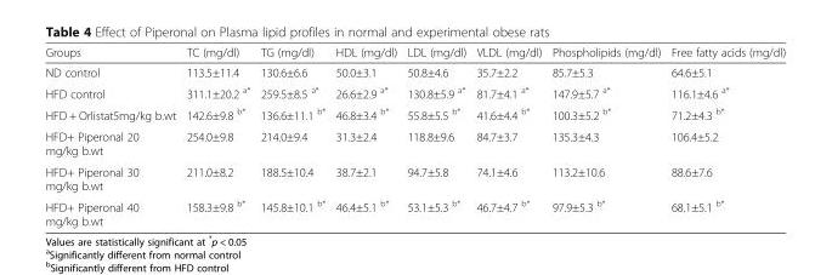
<table><thead><tr><td>Groups</td><td>TC (mg/dl)</td><td>TG (mg/dl)</td><td>HDL (mg/dl)</td><td>LDL (mg/dl)</td><td>VLDL (mg/dl)</td><td>Phospholipids (mg/dl)</td><td>Free fatty acids (mg/dl)</td></tr></thead><tbody><tr><td>ND control</td><td>113.5±11.4</td><td>130.6±6.6</td><td>50.0±3.1</td><td>50.8±4.6</td><td>35.7±2.2</td><td>85.7±5.3</td><td>64.6±5.1</td></tr><tr><td>HFD control</td><td>311.1±20.2 <sup>a*</sup></td><td>259.5±8.5 <sup>a*</sup></td><td>26.6±2.9 <sup>a*</sup></td><td>130.8±5.9 <sup>a*</sup></td><td>81.7±4.1 <sup>a*</sup></td><td>147.9±5.7 <sup>a*</sup></td><td>116.1±4.6 <sup>a*</sup></td></tr><tr><td>HFD + Orlistat5mg/kg b.wt</td><td>142.6±9.8 <sup>b*</sup></td><td>136.6±11.1 <sup>b*</sup></td><td>46.8±3.4 <sup>b*</sup></td><td>55.8±5.5 <sup>b*</sup></td><td>41.6±4.4 <sup>b*</sup></td><td>100.3±5.2 <sup>b*</sup></td><td>71.2±4.3 <sup>b*</sup></td></tr><tr><td>HFD+ Piperonal 20 mg/kg b.wt</td><td>254.0±9.8</td><td>214.0±9.4</td><td>31.3±2.4</td><td>118.8±9.6</td><td>84.7±3.7</td><td>135.3±4.3</td><td>106.4±5.2</td></tr><tr><td>HFD+ Piperonal 30 mg/kg b.wt</td><td>211.0±8.2</td><td>188.5±10.4</td><td>38.7±2.1</td><td>94.7±5.8</td><td>74.1±4.6</td><td>113.2±10.6</td><td>88.6±7.6</td></tr><tr><td>HFD+ Piperonal 40 mg/kg b.wt</td><td>158.3±9.8 <sup>b*</sup></td><td>145.8±10.1 <sup>b*</sup></td><td>46.4±5.1 <sup>b*</sup></td><td>53.1±5.3 <sup>b*</sup></td><td>46.7±4.7 <sup>b*</sup></td><td>97.9±5.3 <sup>b*</sup></td><td>68.1±5.1 <sup>b*</sup></td></tr></tbody></table>